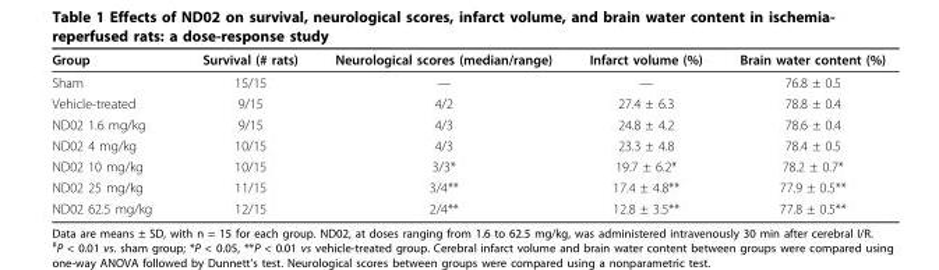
<table><thead><tr><td>Group</td><td>Survival (# rats)</td><td>Neurological scores (median/range)</td><td>Infarct volume (%)</td><td>Brain water content (%)</td></tr></thead><tbody><tr><td>Sham</td><td>15/15</td><td>—</td><td>—</td><td>76.8 ± 0.5</td></tr><tr><td>Vehicle-treated</td><td>9/15</td><td>4/2</td><td>27.4 ± 6.3</td><td>78.8 ± 0.4</td></tr><tr><td>ND02 1.6 mg/kg</td><td>9/15</td><td>4/3</td><td>24.8 ± 4.2</td><td>78.6 ± 0.4</td></tr><tr><td>ND02 4 mg/kg</td><td>10/15</td><td>4/3</td><td>23.3 ± 4.8</td><td>78.4 ± 0.5</td></tr><tr><td>ND02 10 mg/kg</td><td>10/15</td><td>3/3*</td><td>19.7 ± 6.2*</td><td>78.2 ± 0.7*</td></tr><tr><td>ND02 25 mg/kg</td><td>11/15</td><td>3/4**</td><td>17.4 ± 4.8**</td><td>77.9 ± 0.5**</td></tr><tr><td>ND02 62.5 mg/kg</td><td>12/15</td><td>2/4**</td><td>12.8 ± 3.5**</td><td>77.8 ± 0.5**</td></tr></tbody></table>